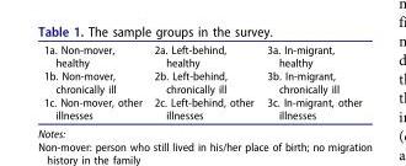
<table><tbody><tr><td>1a. Non-mover, healthy</td><td>2a. Left-behind, healthy</td><td>3a. In-migrant, healthy</td></tr><tr><td>1b. Non-mover, chronically ill</td><td>2b. Left-behind, chronically ill</td><td>3b. In-migrant, chronically ill</td></tr><tr><td>1c. Non-mover, other illnesses</td><td>2c. Left-behind, other illnesses</td><td>3c. In-migrant, other illnesses</td></tr></tbody></table>